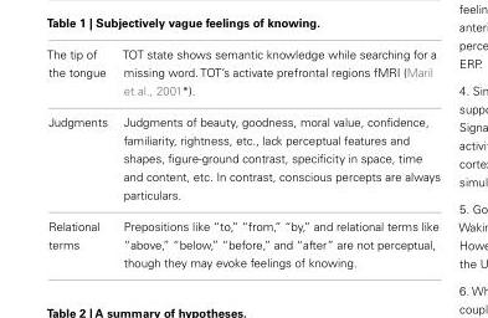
<table><tbody><tr><td>The tip of the tongue</td><td>TOT state shows semantic knowledge while searching for a missing word. TOT’s activate prefrontal regions fMRI (Maril et al., 2001*).</td></tr><tr><td>Judgments</td><td>Judgments of beauty, goodness, moral value, confidence, familiarity, rightness, etc., lack perceptual features and shapes, figure-ground contrast, specificity in space, time and content, etc. In contrast, conscious percepts are always particulars.</td></tr><tr><td>Relational terms</td><td>Prepositions like “to,” “from,” “by,” and relational terms like “above,” “below,” “before,” and “after” are not perceptual, though they may evoke feelings of knowing.</td></tr></tbody></table>